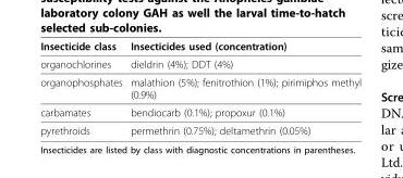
<table><thead><tr><td>Insecticide class</td><td>Insecticides used (concentration)</td></tr></thead><tbody><tr><td>organochlorines</td><td>dieldrin (4%); DDT (4%)</td></tr><tr><td>organophosphates</td><td>malathion (5%); fenitrothion (1%); pirimiphos methyl (0.9%)</td></tr><tr><td>carbamates</td><td>bendiocarb (0.1%); propoxur (0.1%)</td></tr><tr><td>pyrethroids</td><td>permethrin (0.75%); deltamethrin (0.05%)</td></tr></tbody></table>